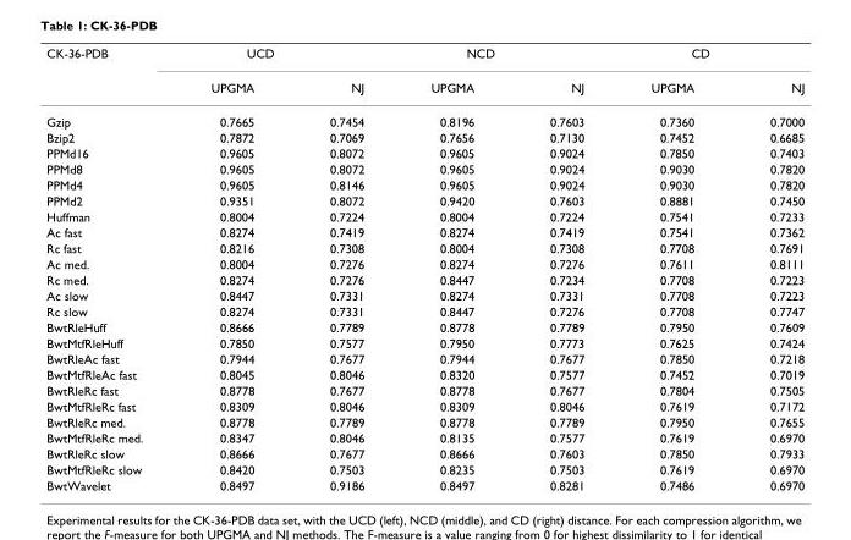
<table><thead><tr><td rowspan="2">CK-36-PDB</td><td colspan="2">UCD</td><td colspan="2">NCD</td><td colspan="2">CD</td></tr><tr><td>UPGMA</td><td>NJ</td><td>UPGMA</td><td>NJ</td><td>UPGMA</td><td>NJ</td></tr></thead><tbody><tr><td>Gzip</td><td>0.7665</td><td>0.7454</td><td>0.8196</td><td>0.7603</td><td>0.7360</td><td>0.7000</td></tr><tr><td>Bzip2</td><td>0.7872</td><td>0.7069</td><td>0.7656</td><td>0.7130</td><td>0.7452</td><td>0.6685</td></tr><tr><td>PPMd16</td><td>0.9605</td><td>0.8072</td><td>0.9605</td><td>0.9024</td><td>0.7850</td><td>0.7403</td></tr><tr><td>PPMd8</td><td>0.9605</td><td>0.8072</td><td>0.9605</td><td>0.9024</td><td>0.9030</td><td>0.7820</td></tr><tr><td>PPMd4</td><td>0.9605</td><td>0.8146</td><td>0.9605</td><td>0.9024</td><td>0.9030</td><td>0.7820</td></tr><tr><td>PPMd2</td><td>0.9351</td><td>0.8072</td><td>0.9420</td><td>0.7603</td><td>0.8881</td><td>0.7450</td></tr><tr><td>Huffman</td><td>0.8004</td><td>0.7224</td><td>0.8004</td><td>0.7224</td><td>0.7541</td><td>0.7233</td></tr><tr><td>Ac fast</td><td>0.8274</td><td>0.7419</td><td>0.8274</td><td>0.7419</td><td>0.7541</td><td>0.7362</td></tr><tr><td>Rc fast</td><td>0.8216</td><td>0.7308</td><td>0.8004</td><td>0.7308</td><td>0.7708</td><td>0.7691</td></tr><tr><td>Ac med.</td><td>0.8004</td><td>0.7276</td><td>0.8274</td><td>0.7276</td><td>0.7611</td><td>0.8111</td></tr><tr><td>Rc med.</td><td>0.8274</td><td>0.7276</td><td>0.8447</td><td>0.7234</td><td>0.7708</td><td>0.7223</td></tr><tr><td>Ac slow</td><td>0.8447</td><td>0.7331</td><td>0.8274</td><td>0.7331</td><td>0.7708</td><td>0.7223</td></tr><tr><td>Rc slow</td><td>0.8274</td><td>0.7331</td><td>0.8447</td><td>0.7276</td><td>0.7708</td><td>0.7747</td></tr><tr><td>BwtRleHuff</td><td>0.8666</td><td>0.7789</td><td>0.8778</td><td>0.7789</td><td>0.7950</td><td>0.7609</td></tr><tr><td>BwtMtfRleHuff</td><td>0.7850</td><td>0.7577</td><td>0.7950</td><td>0.7773</td><td>0.7625</td><td>0.7424</td></tr><tr><td>BwtRleAc fast</td><td>0.7944</td><td>0.7677</td><td>0.7944</td><td>0.7677</td><td>0.7850</td><td>0.7218</td></tr><tr><td>BwtMtfRleAc fast</td><td>0.8045</td><td>0.8046</td><td>0.8320</td><td>0.7577</td><td>0.7452</td><td>0.7019</td></tr><tr><td>BwtRleRc fast</td><td>0.8778</td><td>0.7677</td><td>0.8778</td><td>0.7677</td><td>0.7804</td><td>0.7505</td></tr><tr><td>BwtMtfRleRc fast</td><td>0.8309</td><td>0.8046</td><td>0.8309</td><td>0.8046</td><td>0.7619</td><td>0.7172</td></tr><tr><td>BwtRleRc med.</td><td>0.8778</td><td>0.7789</td><td>0.8778</td><td>0.7789</td><td>0.7950</td><td>0.7655</td></tr><tr><td>BwtMtfRleRc med.</td><td>0.8347</td><td>0.8046</td><td>0.8135</td><td>0.7577</td><td>0.7619</td><td>0.6970</td></tr><tr><td>BwtRleRc slow</td><td>0.8666</td><td>0.7677</td><td>0.8666</td><td>0.7603</td><td>0.7850</td><td>0.7933</td></tr><tr><td>BwtMtfRleRc slow</td><td>0.8420</td><td>0.7503</td><td>0.8235</td><td>0.7503</td><td>0.7619</td><td>0.6970</td></tr><tr><td>BwtWavelet</td><td>0.8497</td><td>0.9186</td><td>0.8497</td><td>0.8281</td><td>0.7486</td><td>0.6970</td></tr></tbody></table>